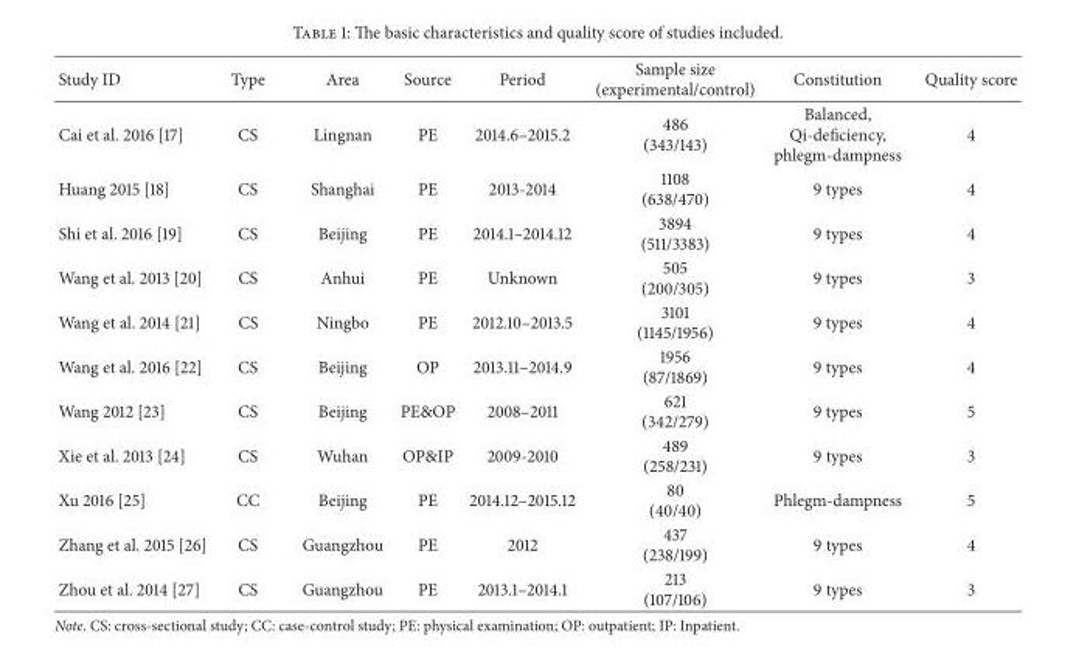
<table><thead><tr><td>Study ID</td><td>Type</td><td>Area</td><td>Source</td><td>Period</td><td>Sample size (experimental/control)</td><td>Constitution</td><td>Quality score</td></tr></thead><tbody><tr><td>Cai et al. 2016 [17]</td><td>CS</td><td>Lingnan</td><td>PE</td><td>2014.6–2015.2</td><td>486 (343/143)</td><td>Balanced, Qi-deficiency, phlegm-dampness</td><td>4</td></tr><tr><td>Huang 2015 [18]</td><td>CS</td><td>Shanghai</td><td>PE</td><td>2013-2014</td><td>1108 (638/470)</td><td>9 types</td><td>4</td></tr><tr><td>Shi et al. 2016 [19]</td><td>CS</td><td>Beijing</td><td>PE</td><td>2014.1–2014.12</td><td>3894 (511/3383)</td><td>9 types</td><td>4</td></tr><tr><td>Wang et al. 2013 [20]</td><td>CS</td><td>Anhui</td><td>PE</td><td>Unknown</td><td>505 (200/305)</td><td>9 types</td><td>3</td></tr><tr><td>Wang et al. 2014 [21]</td><td>CS</td><td>Ningbo</td><td>PE</td><td>2012.10–2013.5</td><td>3101 (1145/1956)</td><td>9 types</td><td>4</td></tr><tr><td>Wang et al. 2016 [22]</td><td>CS</td><td>Beijing</td><td>OP</td><td>2013.11–2014.9</td><td>1956 (87/1869)</td><td>9 types</td><td>4</td></tr><tr><td>Wang 2012 [23]</td><td>CS</td><td>Beijing</td><td>PE&amp;OP</td><td>2008–2011</td><td>621 (342/279)</td><td>9 types</td><td>5</td></tr><tr><td>Xie et al. 2013 [24]</td><td>CS</td><td>Wuhan</td><td>OP&amp;IP</td><td>2009-2010</td><td>489 (258/231)</td><td>9 types</td><td>3</td></tr><tr><td>Xu 2016 [25]</td><td>CC</td><td>Beijing</td><td>PE</td><td>2014.12–2015.12</td><td>80 (40/40)</td><td>Phlegm-dampness</td><td>5</td></tr><tr><td>Zhang et al. 2015 [26]</td><td>CS</td><td>Guangzhou</td><td>PE</td><td>2012</td><td>437 (238/199)</td><td>9 types</td><td>4</td></tr><tr><td>Zhou et al. 2014 [27]</td><td>CS</td><td>Guangzhou</td><td>PE</td><td>2013.1–2014.1</td><td>213 (107/106)</td><td>9 types</td><td>3</td></tr></tbody></table>